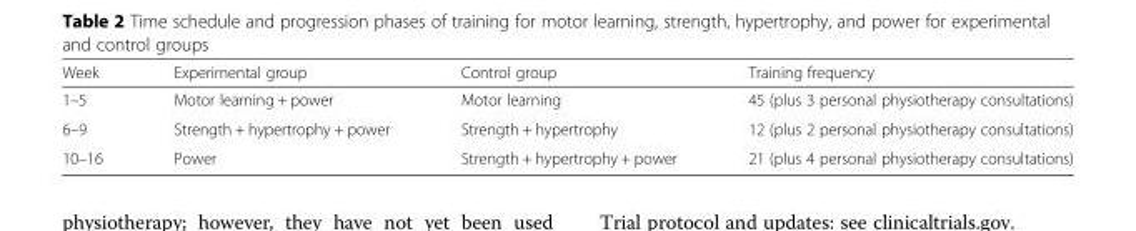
<table><thead><tr><td>Week</td><td>Experimental group</td><td>Control group</td><td>Training frequency</td></tr></thead><tbody><tr><td>1–5</td><td>Motor learning + power</td><td>Motor learning</td><td>45 (plus 3 personal physiotherapy consultations)</td></tr><tr><td>6–9</td><td>Strength + hypertrophy + power</td><td>Strength + hypertrophy</td><td>12 (plus 2 personal physiotherapy consultations)</td></tr><tr><td>10–16</td><td>Power</td><td>Strength + hypertrophy + power</td><td>21 (plus 4 personal physiotherapy consultations)</td></tr></tbody></table>